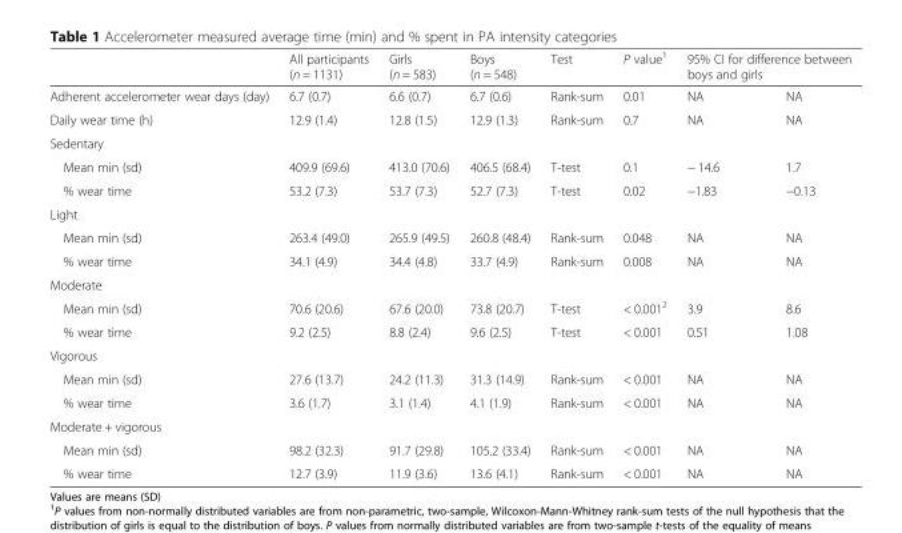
<table><thead><tr><td rowspan="2">Adherent accelerometer wear days (day)</td><td rowspan="2">All participants (n = 1131) 6.7 (0.7)</td><td rowspan="2">Girls (n = 583) 6.6 (0.7)</td><td rowspan="2">Boys (n = 548) 6.7 (0.6)</td><td rowspan="2">Test Rank-sum</td><td rowspan="2">P value<sup>1</sup> 0.01</td><td colspan="2">95% CI for difference between boys and girls</td></tr><tr><td>NA</td><td>NA</td></tr></thead><tbody><tr><td>Daily wear time (h)</td><td>12.9 (1.4)</td><td>12.8 (1.5)</td><td>12.9 (1.3)</td><td>Rank-sum</td><td>0.7</td><td>NA</td><td>NA</td></tr><tr><td colspan="8">Sedentary</td></tr><tr><td>Mean min (sd)</td><td>409.9 (69.6)</td><td>413.0 (70.6)</td><td>406.5 (68.4)</td><td>T-test</td><td>0.1</td><td>− 14.6</td><td>1.7</td></tr><tr><td>% wear time</td><td>53.2 (7.3)</td><td>53.7 (7.3)</td><td>52.7 (7.3)</td><td>T-test</td><td>0.02</td><td>−1.83</td><td>−0.13</td></tr><tr><td colspan="8">Light</td></tr><tr><td>Mean min (sd)</td><td>263.4 (49.0)</td><td>265.9 (49.5)</td><td>260.8 (48.4)</td><td>Rank-sum</td><td>0.048</td><td>NA</td><td>NA</td></tr><tr><td>% wear time</td><td>34.1 (4.9)</td><td>34.4 (4.8)</td><td>33.7 (4.9)</td><td>Rank-sum</td><td>0.008</td><td>NA</td><td>NA</td></tr><tr><td colspan="8">Moderate</td></tr><tr><td>Mean min (sd)</td><td>70.6 (20.6)</td><td>67.6 (20.0)</td><td>73.8 (20.7)</td><td>T-test</td><td>&lt; 0.001<sup>2</sup></td><td>3.9</td><td>8.6</td></tr><tr><td>% wear time</td><td>9.2 (2.5)</td><td>8.8 (2.4)</td><td>9.6 (2.5)</td><td>T-test</td><td>&lt; 0.001</td><td>0.51</td><td>1.08</td></tr><tr><td colspan="8">Vigorous</td></tr><tr><td>Mean min (sd)</td><td>27.6 (13.7)</td><td>24.2 (11.3)</td><td>31.3 (14.9)</td><td>Rank-sum</td><td>&lt; 0.001</td><td>NA</td><td>NA</td></tr><tr><td>% wear time</td><td>3.6 (1.7)</td><td>3.1 (1.4)</td><td>4.1 (1.9)</td><td>Rank-sum</td><td>&lt; 0.001</td><td>NA</td><td>NA</td></tr><tr><td colspan="8">Moderate + vigorous</td></tr><tr><td>Mean min (sd)</td><td>98.2 (32.3)</td><td>91.7 (29.8)</td><td>105.2 (33.4)</td><td>Rank-sum</td><td>&lt; 0.001</td><td>NA</td><td>NA</td></tr><tr><td>% wear time</td><td>12.7 (3.9)</td><td>11.9 (3.6)</td><td>13.6 (4.1)</td><td>Rank-sum</td><td>&lt; 0.001</td><td>NA</td><td>NA</td></tr></tbody></table>